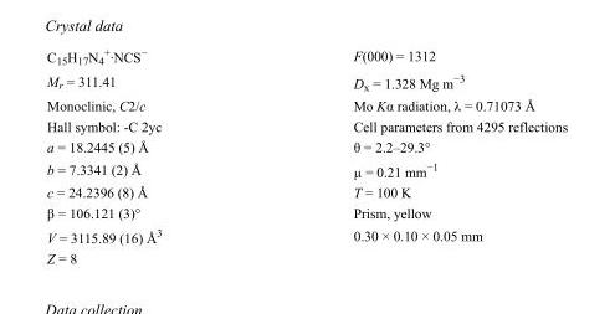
<table><tbody><tr><td>C<sub>15</sub>H<sub>17</sub>N<sub>4</sub> <sup>+</sup>·NCS<sup>−</sup></td><td>F(000) = 1312</td></tr><tr><td>M<sub>r</sub> = 311.41</td><td>D<sub>x</sub> = 1.328 Mg m<sup>−3</sup></td></tr><tr><td>Monoclinic, C2/c</td><td>Mo Kα radiation, λ = 0.71073 Å</td></tr><tr><td>Hall symbol: -C 2yc</td><td>Cell parameters from 4295 reflections</td></tr><tr><td>a = 18.2445 (5) Å</td><td>θ = 2.2–29.3°</td></tr><tr><td>b = 7.3341 (2) Å</td><td>µ = 0.21 mm<sup>−1</sup></td></tr><tr><td>c = 24.2396 (8) Å</td><td>T = 100 K</td></tr><tr><td>β = 106.121 (3)°</td><td>Prism, yellow</td></tr><tr><td>V = 3115.89 (16) Å<sup>3</sup></td><td>0.30 × 0.10 × 0.05 mm</td></tr><tr><td>Z = 8</td><td></td></tr></tbody></table>